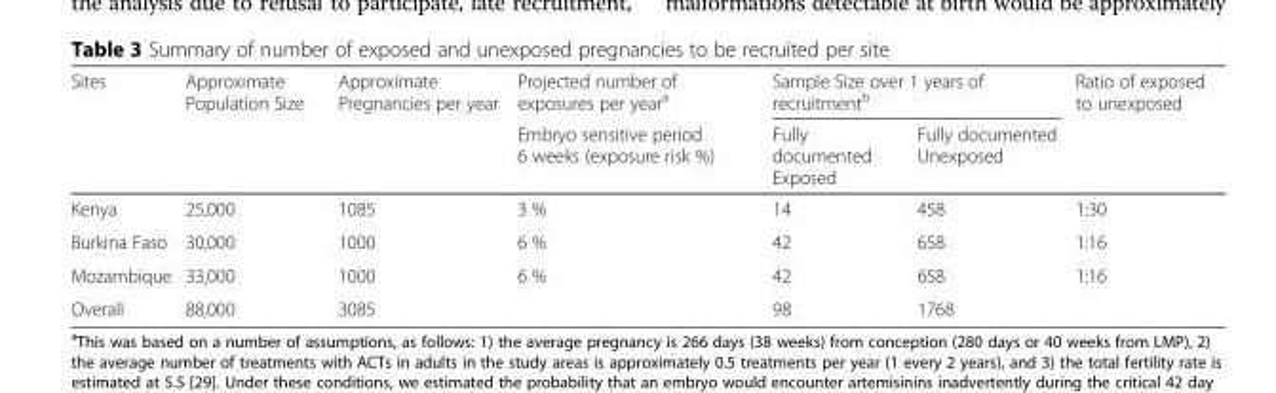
<table><thead><tr><td rowspan="2">Sites</td><td rowspan="2">Approximate Population Size</td><td rowspan="2">Approximate Pregnancies per year</td><td rowspan="2">Projected number of exposures per year<sup>a</sup> Embryo sensitive period 6 weeks (exposure risk %)</td><td colspan="2">Sample Size over 1 years of recruitment<sup>b</sup></td><td rowspan="2">Ratio of exposed to unexposed</td></tr><tr><td>Fully documented Exposed</td><td>Fully documented Unexposed</td></tr></thead><tbody><tr><td>Kenya</td><td>25,000</td><td>1085</td><td>3 %</td><td>14</td><td>458</td><td>1:30</td></tr><tr><td>Burkina Faso</td><td>30,000</td><td>1000</td><td>6 %</td><td>42</td><td>658</td><td>1:16</td></tr><tr><td>Mozambique</td><td>33,000</td><td>1000</td><td>6 %</td><td>42</td><td>658</td><td>1:16</td></tr><tr><td>Overall</td><td>88,000</td><td>3085</td><td></td><td>98</td><td>1768</td><td></td></tr></tbody></table>